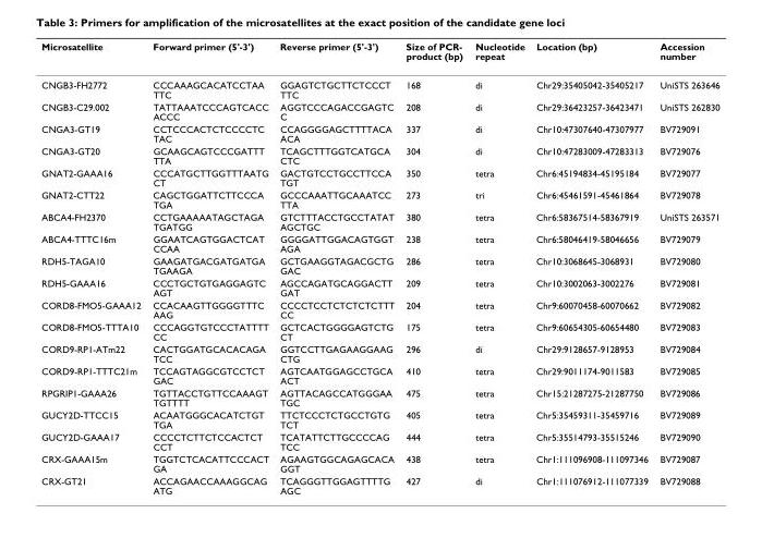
<table><thead><tr><td>Microsatellite</td><td>Forward primer (5&#x27;-3&#x27;)</td><td>Reverse primer (5&#x27;-3&#x27;)</td><td>Size of PCR- product (bp)</td><td>Nucleotide repeat</td><td>Location (bp)</td><td>Accession number</td></tr></thead><tbody><tr><td>CNGB3-FH2772</td><td>CCCAAAGCACATCCTAA TTC</td><td>GGAGTCTGCTTCTCCCT TTC</td><td>168</td><td>di</td><td>Chr29:35405042-35405217</td><td>UniSTS 263646</td></tr><tr><td>CNGB3-C29.002</td><td>TATTAAATCCCAGTCACC ACCC</td><td>AGGTCCCAGACCGAGTC C</td><td>208</td><td>di</td><td>Chr29:36423257-36423471</td><td>UniSTS 262830</td></tr><tr><td>CNGA3-GT19</td><td>CCTCCCACTCTCCCCTC TAC</td><td>CCAGGGGAGCTTTTACA ACA</td><td>337</td><td>di</td><td>Chr10:47307640-47307977</td><td>BV729091</td></tr><tr><td>CNGA3-GT20</td><td>GCAAGCAGTCCCGATTT TTA</td><td>TCAGCTTTGGTCATGCA CTC</td><td>304</td><td>di</td><td>Chr10:47283009-47283313</td><td>BV729076</td></tr><tr><td>GNAT2-GAAA16</td><td>CCCATGCTTGGTTTAATG CT</td><td>GACTGTCCTGCCTTCCA TGT</td><td>350</td><td>tetra</td><td>Chr6:45194834-45195184</td><td>BV729077</td></tr><tr><td>GNAT2-CTT22</td><td>CAGCTGGATTCTTCCCA TGA</td><td>GCCCAAATTGCAAATCC TTA</td><td>273</td><td>tri</td><td>Chr6:45461591-45461864</td><td>BV729078</td></tr><tr><td>ABCA4-FH2370</td><td>CCTGAAAAATAGCTAGA TGATGG</td><td>GTCTTTACCTGCCTATAT AGCTGC</td><td>380</td><td>tetra</td><td>Chr6:58367514-58367919</td><td>UniSTS 263571</td></tr><tr><td>ABCA4-TTTC16m</td><td>GGAATCAGTGGACTCAT CCAA</td><td>GGGGATTGGACAGTGGT AGA</td><td>238</td><td>tetra</td><td>Chr6:58046419-58046656</td><td>BV729079</td></tr><tr><td>RDH5-TAGA10</td><td>GAAGATGACGATGATGA TGAAGA</td><td>GCTGAAGGTAGACGCTG GAC</td><td>286</td><td>tetra</td><td>Chr10:3068645-3068931</td><td>BV729080</td></tr><tr><td>RDH5-GAAA16</td><td>CCCTGCTGTGAGGAGTC AGT</td><td>AGCCAGATGCAGGACTT GAT</td><td>209</td><td>tetra</td><td>Chr10:3002063-3002276</td><td>BV729081</td></tr><tr><td>CORD8-FMO5-GAAA12</td><td>CCACAAGTTGGGGTTTC AAG</td><td>CCCCTCCTCTCTCTCTTT CC</td><td>204</td><td>tetra</td><td>Chr9:60070458-60070662</td><td>BV729082</td></tr><tr><td>CORD8-FMO5-TTTA10</td><td>CCCAGGTGTCCCTATTTT CC</td><td>GCTCACTGGGGAGTCTG CT</td><td>175</td><td>tetra</td><td>Chr9:60654305-60654480</td><td>BV729083</td></tr><tr><td>CORD9-RP1-ATm22</td><td>CACTGGATGCACACAGA TCC</td><td>GGTCCTTGAGAAGGAAG CTG</td><td>296</td><td>di</td><td>Chr29:9128657-9128953</td><td>BV729084</td></tr><tr><td>CORD9-RP1-TTTC21m</td><td>TCCAGTAGGCGTCCTCT GAC</td><td>AGTCAATGGAGCCTGCA ACT</td><td>410</td><td>tetra</td><td>Chr29:9011174-9011583</td><td>BV729085</td></tr><tr><td>RPGRIP1-GAAA26</td><td>TGTTACCTGTTCCAAAGT TGTTTT</td><td>AGTTACAGCCATGGGAA TGC</td><td>475</td><td>tetra</td><td>Chr15:21287275-21287750</td><td>BV729086</td></tr><tr><td>GUCY2D-TTCC15</td><td>ACAATGGGCACATCTGT TGA</td><td>TTCTCCCTCTGCCTGTG TCT</td><td>405</td><td>tetra</td><td>Chr5:35459311-35459716</td><td>BV729089</td></tr><tr><td>GUCY2D-GAAA17</td><td>CCCCTCTTCTCCACTCT CCT</td><td>TCATATTCTTGCCCCAG TCC</td><td>444</td><td>tetra</td><td>Chr5:35514793-35515246</td><td>BV729090</td></tr><tr><td>CRX-GAAA15m</td><td>TGGTCTCACATTCCCACT GA</td><td>AGAAGTGGCAGAGCACA GGT</td><td>438</td><td>tetra</td><td>Chr1:111096908-111097346</td><td>BV729087</td></tr><tr><td>CRX-GT21</td><td>ACCAGAACCAAAGGCAG ATG</td><td>TCAGGGTTGGAGTTTTG AGC</td><td>427</td><td>di</td><td>Chr1:111076912-111077339</td><td>BV729088</td></tr></tbody></table>